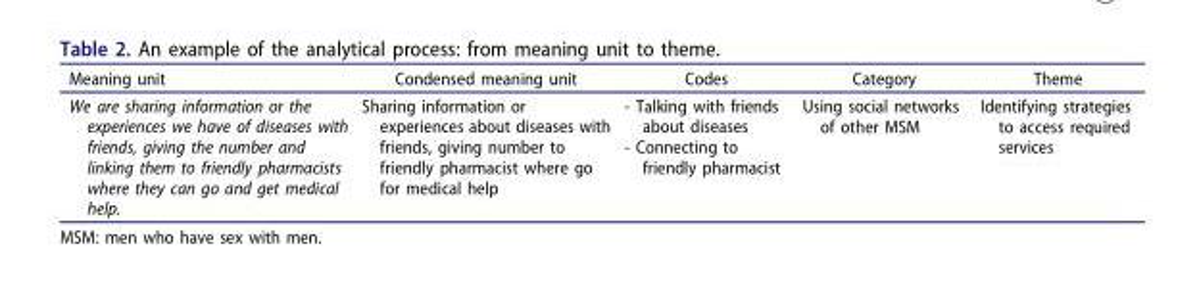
<table><thead><tr><td>Meaning unit</td><td>Condensed meaning unit</td><td>Codes</td><td>Category</td><td>Theme</td></tr></thead><tbody><tr><td>We are sharing information or the experiences we have of diseases with friends, giving the number and linking them to friendly pharmacists where they can go and get medical help.</td><td>Sharing information or experiences about diseases with friends, giving number to friendly pharmacist where go for medical help</td><td>- Talking with friends about diseases - Connecting to friendly pharmacist</td><td>Using social networks of other MSM</td><td>Identifying strategies to access required services</td></tr></tbody></table>